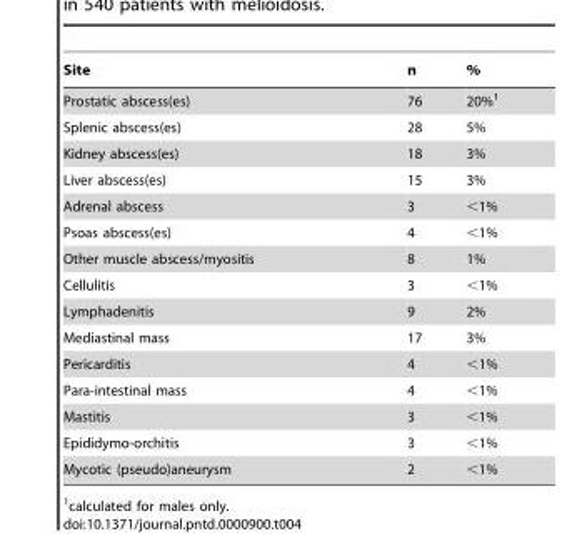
<table><thead><tr><td>Site</td><td>n</td><td>%</td></tr></thead><tbody><tr><td>Prostatic abscess(es)</td><td>76</td><td>20%<sup>1</sup></td></tr><tr><td>Splenic abscess(es)</td><td>28</td><td>5%</td></tr><tr><td>Kidney abscess(es)</td><td>18</td><td>3%</td></tr><tr><td>Liver abscess(es)</td><td>15</td><td>3%</td></tr><tr><td>Adrenal abscess</td><td>3</td><td>&lt;1%</td></tr><tr><td>Psoas abscess(es)</td><td>4</td><td>&lt;1%</td></tr><tr><td>Other muscle abscess/myositis</td><td>8</td><td>1%</td></tr><tr><td>Cellulitis</td><td>3</td><td>&lt;1%</td></tr><tr><td>Lymphadenitis</td><td>9</td><td>2%</td></tr><tr><td>Mediastinal mass</td><td>17</td><td>3%</td></tr><tr><td>Pericarditis</td><td>4</td><td>&lt;1%</td></tr><tr><td>Para-intestinal mass</td><td>4</td><td>&lt;1%</td></tr><tr><td>Mastitis</td><td>3</td><td>&lt;1%</td></tr><tr><td>Epididymo-orchitis</td><td>3</td><td>&lt;1%</td></tr><tr><td>Mycotic (pseudo)aneurysm</td><td>2</td><td>&lt;1%</td></tr></tbody></table>